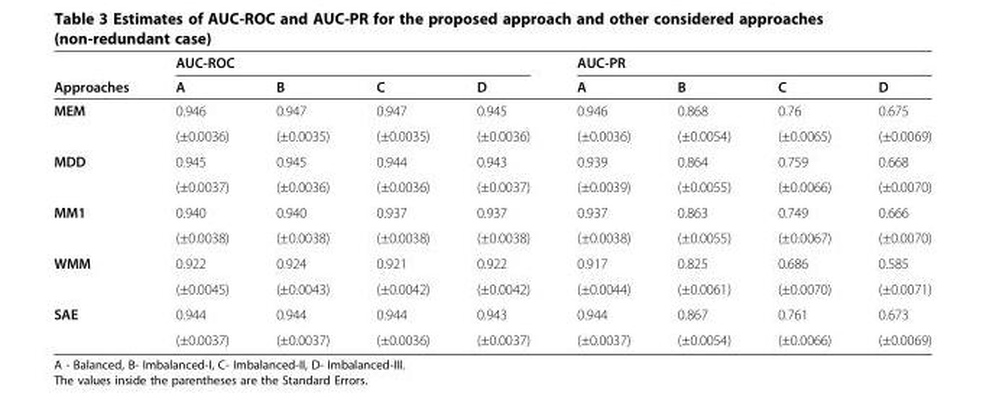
<table><thead><tr><td rowspan="2">Approaches</td><td colspan="4">AUC-ROC</td><td colspan="4">AUC-PR</td></tr><tr><td>A</td><td>B</td><td>C</td><td>D</td><td>A</td><td>B</td><td>C</td><td>D</td></tr></thead><tbody><tr><td rowspan="2">MEM</td><td>0.946</td><td>0.947</td><td>0.947</td><td>0.945</td><td>0.946</td><td>0.868</td><td>0.76</td><td>0.675</td></tr><tr><td>(±0.0036)</td><td>(±0.0035)</td><td>(±0.0035)</td><td>(±0.0036)</td><td>(±0.0036)</td><td>(±0.0054)</td><td>(±0.0065)</td><td>(±0.0069)</td></tr><tr><td rowspan="2">MDD</td><td>0.945</td><td>0.945</td><td>0.944</td><td>0.943</td><td>0.939</td><td>0.864</td><td>0.759</td><td>0.668</td></tr><tr><td>(±0.0037)</td><td>(±0.0036)</td><td>(±0.0036)</td><td>(±0.0037)</td><td>(±0.0039)</td><td>(±0.0055)</td><td>(±0.0066)</td><td>(±0.0070)</td></tr><tr><td rowspan="2">MM1</td><td>0.940</td><td>0.940</td><td>0.937</td><td>0.937</td><td>0.937</td><td>0.863</td><td>0.749</td><td>0.666</td></tr><tr><td>(±0.0038)</td><td>(±0.0038)</td><td>(±0.0038)</td><td>(±0.0038)</td><td>(±0.0038)</td><td>(±0.0055)</td><td>(±0.0067)</td><td>(±0.0070)</td></tr><tr><td rowspan="2">WMM</td><td>0.922</td><td>0.924</td><td>0.921</td><td>0.922</td><td>0.917</td><td>0.825</td><td>0.686</td><td>0.585</td></tr><tr><td>(±0.0045)</td><td>(±0.0043)</td><td>(±0.0042)</td><td>(±0.0042)</td><td>(±0.0044)</td><td>(±0.0061)</td><td>(±0.0070)</td><td>(±0.0071)</td></tr><tr><td rowspan="2">SAE</td><td>0.944</td><td>0.944</td><td>0.944</td><td>0.943</td><td>0.944</td><td>0.867</td><td>0.761</td><td>0.673</td></tr><tr><td>(±0.0037)</td><td>(±0.0037)</td><td>(±0.0036)</td><td>(±0.0037)</td><td>(±0.0037)</td><td>(±0.0054)</td><td>(±0.0066)</td><td>(±0.0069)</td></tr></tbody></table>